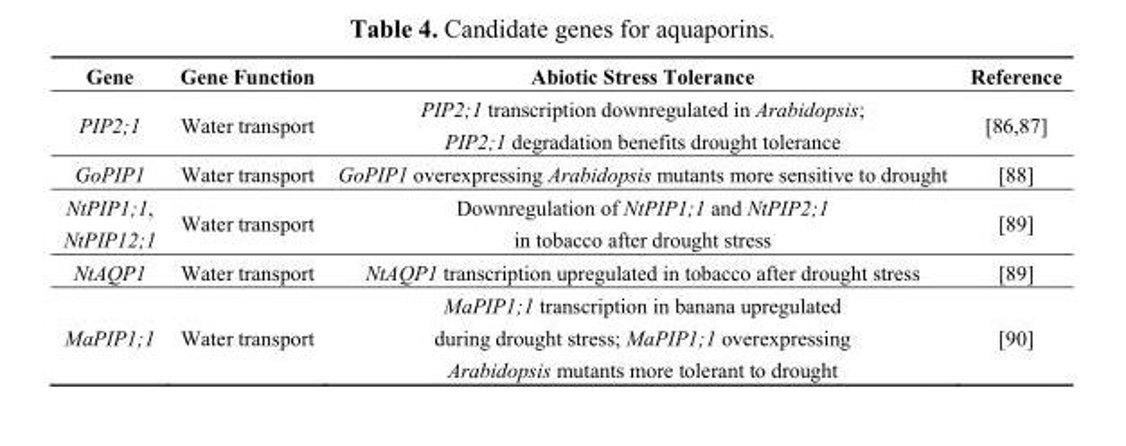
<table><thead><tr><td>Gene</td><td>Gene Function</td><td>Abiotic Stress Tolerance</td><td>Reference</td></tr></thead><tbody><tr><td>PIP2;1</td><td>Water transport</td><td>PIP2;1 transcription downregulated in Arabidopsis; PIP2;1 degradation benefits drought tolerance</td><td>[86,87]</td></tr><tr><td>GoPIP1</td><td>Water transport</td><td>GoPIP1 overexpressing Arabidopsis mutants more sensitive to drought</td><td>[88]</td></tr><tr><td>NtPIP1;1, NtPIP12;1</td><td>Water transport</td><td>Downregulation of NtPIP1;1 and NtPIP2;1 in tobacco after drought stress</td><td>[89]</td></tr><tr><td>NtAQP1</td><td>Water transport</td><td>NtAQP1 transcription upregulated in tobacco after drought stress</td><td>[89]</td></tr><tr><td>MaPIP1;1</td><td>Water transport</td><td>MaPIP1;1 transcription in banana upregulated during drought stress; MaPIP1;1 overexpressing Arabidopsis mutants more tolerant to drought</td><td>[90]</td></tr></tbody></table>